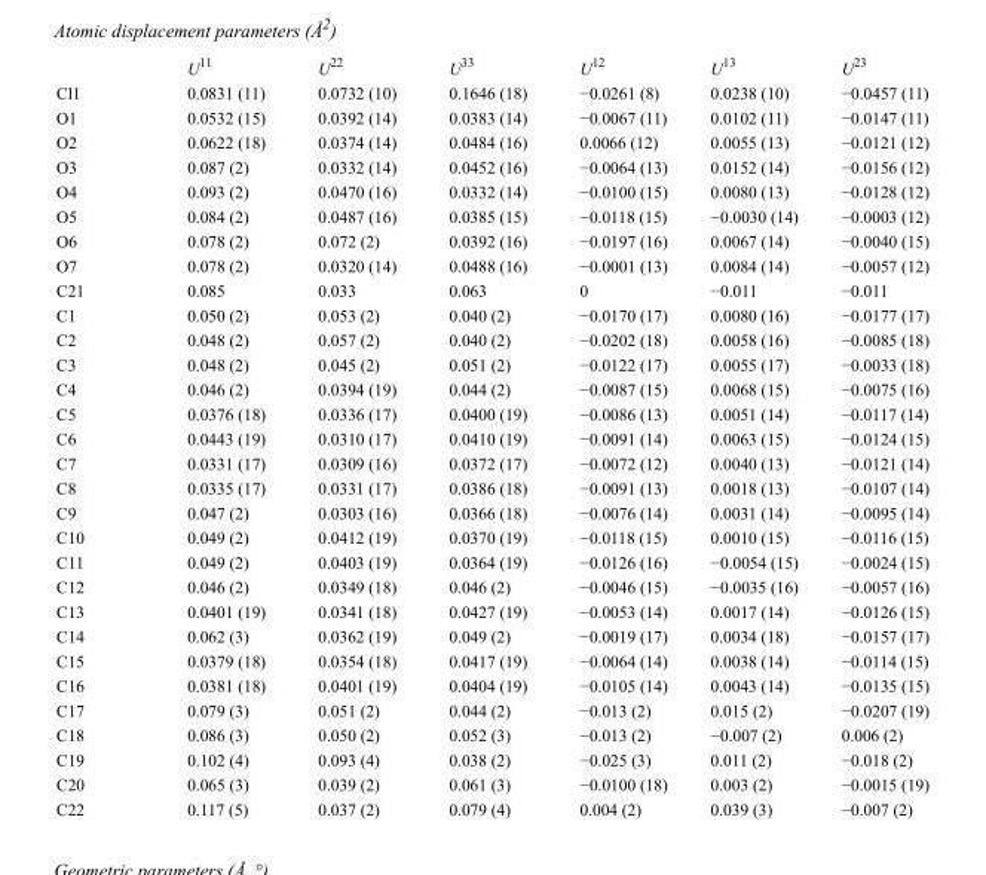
<table><thead><tr><td></td><td>U<sup>11</sup></td><td>U<sup>22</sup></td><td>U<sup>33</sup></td><td>U<sup>12</sup></td><td>U<sup>13</sup></td><td>U<sup>23</sup></td></tr></thead><tbody><tr><td>Cl1</td><td>0.0831 (11)</td><td>0.0732 (10)</td><td>0.1646 (18)</td><td>−0.0261 (8)</td><td>0.0238 (10)</td><td>−0.0457 (11)</td></tr><tr><td>O1</td><td>0.0532 (15)</td><td>0.0392 (14)</td><td>0.0383 (14)</td><td>−0.0067 (11)</td><td>0.0102 (11)</td><td>−0.0147 (11)</td></tr><tr><td>O2</td><td>0.0622 (18)</td><td>0.0374 (14)</td><td>0.0484 (16)</td><td>0.0066 (12)</td><td>0.0055 (13)</td><td>−0.0121 (12)</td></tr><tr><td>O3</td><td>0.087 (2)</td><td>0.0332 (14)</td><td>0.0452 (16)</td><td>−0.0064 (13)</td><td>0.0152 (14)</td><td>−0.0156 (12)</td></tr><tr><td>O4</td><td>0.093 (2)</td><td>0.0470 (16)</td><td>0.0332 (14)</td><td>−0.0100 (15)</td><td>0.0080 (13)</td><td>−0.0128 (12)</td></tr><tr><td>O5</td><td>0.084 (2)</td><td>0.0487 (16)</td><td>0.0385 (15)</td><td>−0.0118 (15)</td><td>−0.0030 (14)</td><td>−0.0003 (12)</td></tr><tr><td>O6</td><td>0.078 (2)</td><td>0.072 (2)</td><td>0.0392 (16)</td><td>−0.0197 (16)</td><td>0.0067 (14)</td><td>−0.0040 (15)</td></tr><tr><td>O7</td><td>0.078 (2)</td><td>0.0320 (14)</td><td>0.0488 (16)</td><td>−0.0001 (13)</td><td>0.0084 (14)</td><td>−0.0057 (12)</td></tr><tr><td>C21</td><td>0.085</td><td>0.033</td><td>0.063</td><td>0</td><td>−0.011</td><td>−0.011</td></tr><tr><td>C1</td><td>0.050 (2)</td><td>0.053 (2)</td><td>0.040 (2)</td><td>−0.0170 (17)</td><td>0.0080 (16)</td><td>−0.0177 (17)</td></tr><tr><td>C2</td><td>0.048 (2)</td><td>0.057 (2)</td><td>0.040 (2)</td><td>−0.0202 (18)</td><td>0.0058 (16)</td><td>−0.0085 (18)</td></tr><tr><td>C3</td><td>0.048 (2)</td><td>0.045 (2)</td><td>0.051 (2)</td><td>−0.0122 (17)</td><td>0.0055 (17)</td><td>−0.0033 (18)</td></tr><tr><td>C4</td><td>0.046 (2)</td><td>0.0394 (19)</td><td>0.044 (2)</td><td>−0.0087 (15)</td><td>0.0068 (15)</td><td>−0.0075 (16)</td></tr><tr><td>C5</td><td>0.0376 (18)</td><td>0.0336 (17)</td><td>0.0400 (19)</td><td>−0.0086 (13)</td><td>0.0051 (14)</td><td>−0.0117 (14)</td></tr><tr><td>C6</td><td>0.0443 (19)</td><td>0.0310 (17)</td><td>0.0410 (19)</td><td>−0.0091 (14)</td><td>0.0063 (15)</td><td>−0.0124 (15)</td></tr><tr><td>C7</td><td>0.0331 (17)</td><td>0.0309 (16)</td><td>0.0372 (17)</td><td>−0.0072 (12)</td><td>0.0040 (13)</td><td>−0.0121 (14)</td></tr><tr><td>C8</td><td>0.0335 (17)</td><td>0.0331 (17)</td><td>0.0386 (18)</td><td>−0.0091 (13)</td><td>0.0018 (13)</td><td>−0.0107 (14)</td></tr><tr><td>C9</td><td>0.047 (2)</td><td>0.0303 (16)</td><td>0.0366 (18)</td><td>−0.0076 (14)</td><td>0.0031 (14)</td><td>−0.0095 (14)</td></tr><tr><td>C10</td><td>0.049 (2)</td><td>0.0412 (19)</td><td>0.0370 (19)</td><td>−0.0118 (15)</td><td>0.0010 (15)</td><td>−0.0116 (15)</td></tr><tr><td>C11</td><td>0.049 (2)</td><td>0.0403 (19)</td><td>0.0364 (19)</td><td>−0.0126 (16)</td><td>−0.0054 (15)</td><td>−0.0024 (15)</td></tr><tr><td>C12</td><td>0.046 (2)</td><td>0.0349 (18)</td><td>0.046 (2)</td><td>−0.0046 (15)</td><td>−0.0035 (16)</td><td>−0.0057 (16)</td></tr><tr><td>C13</td><td>0.0401 (19)</td><td>0.0341 (18)</td><td>0.0427 (19)</td><td>−0.0053 (14)</td><td>0.0017 (14)</td><td>−0.0126 (15)</td></tr><tr><td>C14</td><td>0.062 (3)</td><td>0.0362 (19)</td><td>0.049 (2)</td><td>−0.0019 (17)</td><td>0.0034 (18)</td><td>−0.0157 (17)</td></tr><tr><td>C15</td><td>0.0379 (18)</td><td>0.0354 (18)</td><td>0.0417 (19)</td><td>−0.0064 (14)</td><td>0.0038 (14)</td><td>−0.0114 (15)</td></tr><tr><td>C16</td><td>0.0381 (18)</td><td>0.0401 (19)</td><td>0.0404 (19)</td><td>−0.0105 (14)</td><td>0.0043 (14)</td><td>−0.0135 (15)</td></tr><tr><td>C17</td><td>0.079 (3)</td><td>0.051 (2)</td><td>0.044 (2)</td><td>−0.013 (2)</td><td>0.015 (2)</td><td>−0.0207 (19)</td></tr><tr><td>C18</td><td>0.086 (3)</td><td>0.050 (2)</td><td>0.052 (3)</td><td>−0.013 (2)</td><td>−0.007 (2)</td><td>0.006 (2)</td></tr><tr><td>C19</td><td>0.102 (4)</td><td>0.093 (4)</td><td>0.038 (2)</td><td>−0.025 (3)</td><td>0.011 (2)</td><td>−0.018 (2)</td></tr><tr><td>C20</td><td>0.065 (3)</td><td>0.039 (2)</td><td>0.061 (3)</td><td>−0.0100 (18)</td><td>0.003 (2)</td><td>−0.0015 (19)</td></tr><tr><td>C22</td><td>0.117 (5)</td><td>0.037 (2)</td><td>0.079 (4)</td><td>0.004 (2)</td><td>0.039 (3)</td><td>−0.007 (2)</td></tr></tbody></table>